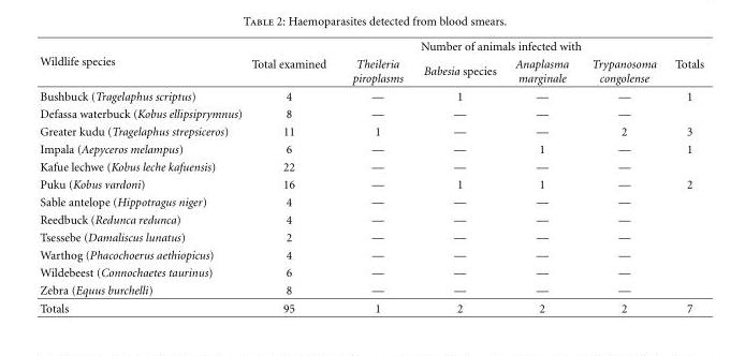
<table><thead><tr><td rowspan="2">Wildlife species</td><td rowspan="2">Total examined</td><td colspan="4">Number of animals infected with</td><td rowspan="2">Totals</td></tr><tr><td>Theileria piroplasms</td><td>Babesia species</td><td>Anaplasma marginale</td><td>Trypanosoma congolense</td></tr></thead><tbody><tr><td>Bushbuck (Tragelaphus scriptus)</td><td>4</td><td>—</td><td>1</td><td>—</td><td>—</td><td>1</td></tr><tr><td>Defassa waterbuck (Kobus ellipsiprymnus)</td><td>8</td><td>—</td><td>—</td><td>—</td><td>—</td><td></td></tr><tr><td>Greater kudu (Tragelaphus strepsiceros)</td><td>11</td><td>1</td><td>—</td><td>—</td><td>2</td><td>3</td></tr><tr><td>Impala (Aepyceros melampus)</td><td>6</td><td>—</td><td>—</td><td>1</td><td>—</td><td>1</td></tr><tr><td>Kafue lechwe (Kobus leche kafuensis)</td><td>22</td><td>—</td><td>—</td><td>—</td><td>—</td><td></td></tr><tr><td>Puku (Kobus vardoni)</td><td>16</td><td>—</td><td>1</td><td>1</td><td>—</td><td>2</td></tr><tr><td>Sable antelope (Hippotragus niger)</td><td>4</td><td>—</td><td>—</td><td>—</td><td>—</td><td></td></tr><tr><td>Reedbuck (Redunca redunca)</td><td>4</td><td>—</td><td>—</td><td>—</td><td>—</td><td></td></tr><tr><td>Tsessebe (Damaliscus lunatus)</td><td>2</td><td>—</td><td>—</td><td>—</td><td>—</td><td></td></tr><tr><td>Warthog (Phacochoerus aethiopicus)</td><td>4</td><td>—</td><td>—</td><td>—</td><td>—</td><td></td></tr><tr><td>Wildebeest (Connochaetes taurinus)</td><td>6</td><td>—</td><td>—</td><td>—</td><td>—</td><td></td></tr><tr><td>Zebra (Equus burchelli)</td><td>8</td><td>—</td><td>—</td><td>—</td><td>—</td><td></td></tr><tr><td>Totals</td><td>95</td><td>1</td><td>2</td><td>2</td><td>2</td><td>7</td></tr></tbody></table>